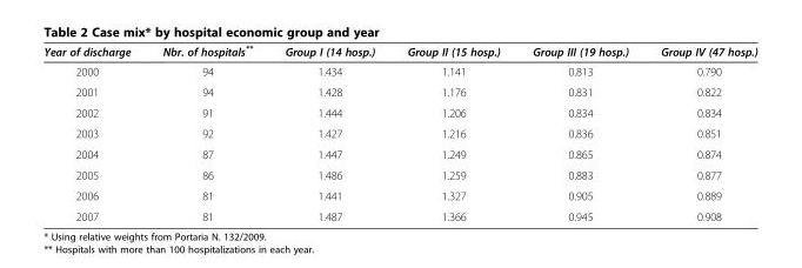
<table><thead><tr><td>Year of discharge</td><td>Nbr. of hospitals**</td><td>Group I (14 hosp.)</td><td>Group II (15 hosp.)</td><td>Group III (19 hosp.)</td><td>Group IV (47 hosp.)</td></tr></thead><tbody><tr><td>2000</td><td>94</td><td>1.434</td><td>1.141</td><td>0.813</td><td>0.790</td></tr><tr><td>2001</td><td>94</td><td>1.428</td><td>1.176</td><td>0.831</td><td>0.822</td></tr><tr><td>2002</td><td>91</td><td>1.444</td><td>1.206</td><td>0.834</td><td>0.834</td></tr><tr><td>2003</td><td>92</td><td>1.427</td><td>1.216</td><td>0.836</td><td>0.851</td></tr><tr><td>2004</td><td>87</td><td>1.447</td><td>1.249</td><td>0.865</td><td>0.874</td></tr><tr><td>2005</td><td>86</td><td>1.486</td><td>1.259</td><td>0.883</td><td>0.877</td></tr><tr><td>2006</td><td>81</td><td>1.441</td><td>1.327</td><td>0.905</td><td>0.889</td></tr><tr><td>2007</td><td>81</td><td>1.487</td><td>1.366</td><td>0.945</td><td>0.908</td></tr></tbody></table>